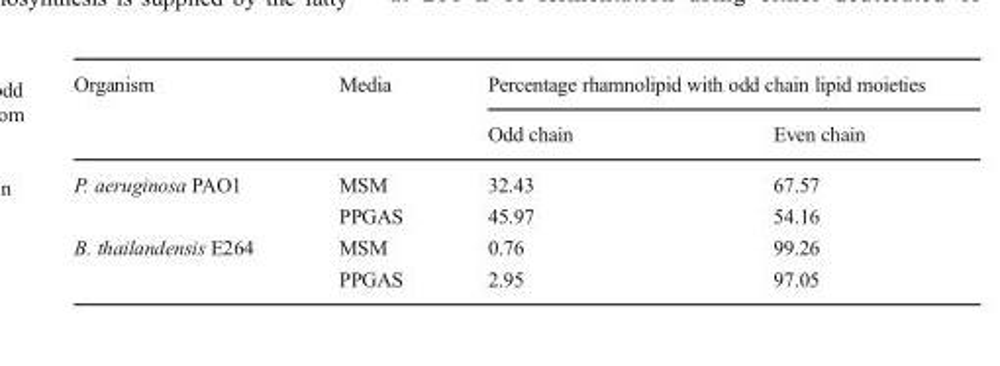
<table><thead><tr><td rowspan="2">Organism</td><td rowspan="2">Media</td><td colspan="2">Percentage rhamnolipid with odd chain lipid moieties</td></tr><tr><td>Odd chain</td><td>Even chain</td></tr></thead><tbody><tr><td rowspan="2">P. aeruginosa PAO1</td><td>MSM</td><td>32.43</td><td>67.57</td></tr><tr><td>PPGAS</td><td>45.97</td><td>54.16</td></tr><tr><td rowspan="2">B. thailandensis E264</td><td>MSM</td><td>0.76</td><td>99.26</td></tr><tr><td>PPGAS</td><td>2.95</td><td>97.05</td></tr></tbody></table>